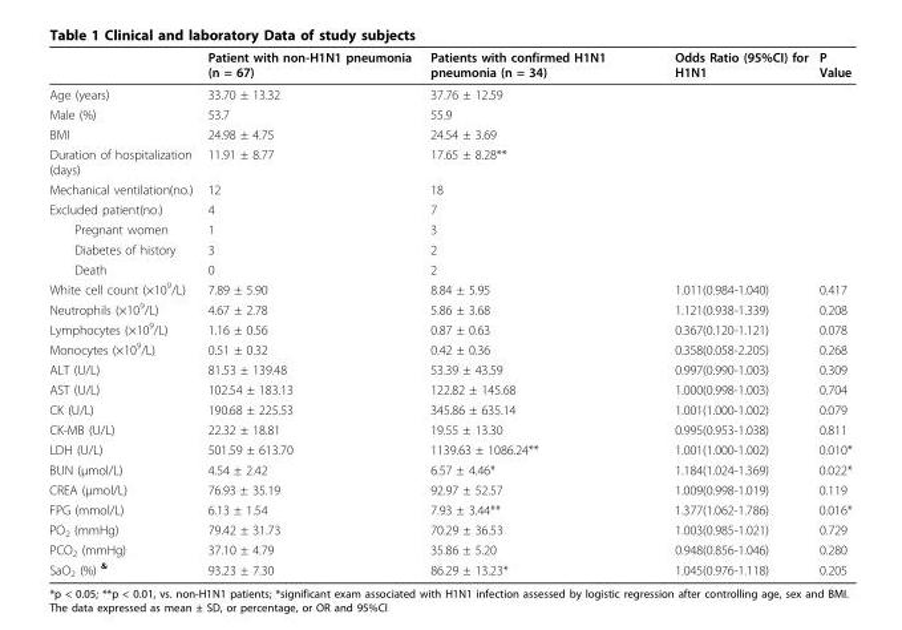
<table><thead><tr><td></td><td>Patient with non-H1N1 pneumonia (n = 67)</td><td>Patients with confirmed H1N1 pneumonia (n = 34)</td><td>Odds Ratio (95%CI) for H1N1</td><td>P Value</td></tr></thead><tbody><tr><td>Age (years)</td><td>33.70 ± 13.32</td><td>37.76 ± 12.59</td><td></td><td></td></tr><tr><td>Male (%)</td><td>53.7</td><td>55.9</td><td></td><td></td></tr><tr><td>BMI</td><td>24.98 ± 4.75</td><td>24.54 ± 3.69</td><td></td><td></td></tr><tr><td>Duration of hospitalization (days)</td><td>11.91 ± 8.77</td><td>17.65 ± 8.28**</td><td></td><td></td></tr><tr><td>Mechanical ventilation(no.)</td><td>12</td><td>18</td><td></td><td></td></tr><tr><td>Excluded patient(no.)</td><td>4</td><td>7</td><td></td><td></td></tr><tr><td>Pregnant women</td><td>1</td><td>3</td><td></td><td></td></tr><tr><td>Diabetes of history</td><td>3</td><td>2</td><td></td><td></td></tr><tr><td>Death</td><td>0</td><td>2</td><td></td><td></td></tr><tr><td>White cell count (×10<sup>9</sup>/L)</td><td>7.89 ± 5.90</td><td>8.84 ± 5.95</td><td>1.011(0.984-1.040)</td><td>0.417</td></tr><tr><td>Neutrophils (×10<sup>9</sup>/L)</td><td>4.67 ± 2.78</td><td>5.86 ± 3.68</td><td>1.121(0.938-1.339)</td><td>0.208</td></tr><tr><td>Lymphocytes (×10<sup>9</sup>/L)</td><td>1.16 ± 0.56</td><td>0.87 ± 0.63</td><td>0.367(0.120-1.121)</td><td>0.078</td></tr><tr><td>Monocytes (×10<sup>9</sup>/L)</td><td>0.51 ± 0.32</td><td>0.42 ± 0.36</td><td>0.358(0.058-2.205)</td><td>0.268</td></tr><tr><td>ALT (U/L)</td><td>81.53 ± 139.48</td><td>53.39 ± 43.59</td><td>0.997(0.990-1.003)</td><td>0.309</td></tr><tr><td>AST (U/L)</td><td>102.54 ± 183.13</td><td>122.82 ± 145.68</td><td>1.000(0.998-1.003)</td><td>0.704</td></tr><tr><td>CK (U/L)</td><td>190.68 ± 225.53</td><td>345.86 ± 635.14</td><td>1.001(1.000-1.002)</td><td>0.079</td></tr><tr><td>CK-MB (U/L)</td><td>22.32 ± 18.81</td><td>19.55 ± 13.30</td><td>0.995(0.953-1.038)</td><td>0.811</td></tr><tr><td>LDH (U/L)</td><td>501.59 ± 613.70</td><td>1139.63 ± 1086.24**</td><td>1.001(1.000-1.002)</td><td>0.010*</td></tr><tr><td>BUN (μmol/L)</td><td>4.54 ± 2.42</td><td>6.57 ± 4.46*</td><td>1.184(1.024-1.369)</td><td>0.022*</td></tr><tr><td>CREA (μmol/L)</td><td>76.93 ± 35.19</td><td>92.97 ± 52.57</td><td>1.009(0.998-1.019)</td><td>0.119</td></tr><tr><td>FPG (mmol/L)</td><td>6.13 ± 1.54</td><td>7.93 ± 3.44**</td><td>1.377(1.062-1.786)</td><td>0.016*</td></tr><tr><td>PO<sub>2</sub> (mmHg)</td><td>79.42 ± 31.73</td><td>70.29 ± 36.53</td><td>1.003(0.985-1.021)</td><td>0.729</td></tr><tr><td>PCO<sub>2</sub> (mmHg)</td><td>37.10 ± 4.79</td><td>35.86 ± 5.20</td><td>0.948(0.856-1.046)</td><td>0.280</td></tr><tr><td>SaO<sub>2</sub> (%) <sup>&amp;</sup></td><td>93.23 ± 7.30</td><td>86.29 ± 13.23*</td><td>1.045(0.976-1.118)</td><td>0.205</td></tr></tbody></table>